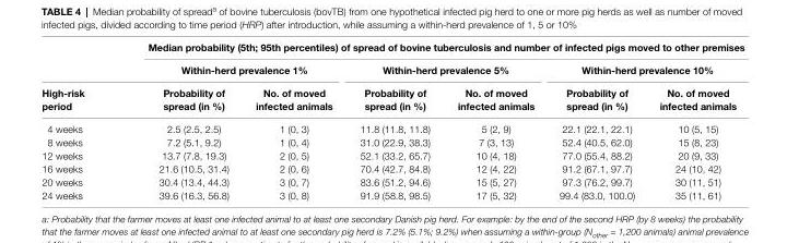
<table><thead><tr><td rowspan="3">high-risk period</td><td colspan="6">Median probability (5th; 95th percentiles) of spread of bovine tuberculosis and number of infected pigs moved to other premises</td></tr><tr><td colspan="2">Within-herd prevalence 1%</td><td colspan="2">Within-herd prevalence 5%</td><td colspan="2">Within-herd prevalence 10%</td></tr><tr><td>Probability of spread (in %)</td><td>no. of moved infected animals</td><td>Probability of spread (in %)</td><td>no. of moved infected animals</td><td>Probability of spread (in %)</td><td>no. of moved infected animals</td></tr></thead><tbody><tr><td>4 weeks</td><td>2.5 (2.5, 2.5)</td><td>1 (0, 3)</td><td>11.8 (11.8, 11.8)</td><td>5 (2, 9)</td><td>22.1 (22.1, 22.1)</td><td>10 (5, 15)</td></tr><tr><td>8 weeks</td><td>7.2 (5.1, 9.2)</td><td>1 (0, 4)</td><td>31.0 (22.9, 38.3)</td><td>7 (3, 13)</td><td>52.4 (40.5, 62.0)</td><td>15 (8, 23)</td></tr><tr><td>12 weeks</td><td>13.7 (7.8, 19.3)</td><td>2 (0, 5)</td><td>52.1 (33.2, 65.7)</td><td>10 (4, 18)</td><td>77.0 (55.4, 88.2)</td><td>20 (9, 33)</td></tr><tr><td>16 weeks</td><td>21.6 (10.5, 31.4)</td><td>2 (0, 6)</td><td>70.4 (42.7, 84.8)</td><td>12 (4, 22)</td><td>91.2 (67.1, 97.7)</td><td>24 (10, 42)</td></tr><tr><td>20 weeks</td><td>30.4 (13.4, 44.3)</td><td>3 (0, 7)</td><td>83.6 (51.2, 94.6)</td><td>15 (5, 27)</td><td>97.3 (76.2, 99.7)</td><td>30 (11, 51)</td></tr><tr><td>24 weeks</td><td>39.6 (16.3, 56.8)</td><td>3 (0, 8)</td><td>91.9 (58.8, 98.5)</td><td>17 (5, 32)</td><td>99.4 (83.0, 100.0)</td><td>35 (11, 61)</td></tr></tbody></table>